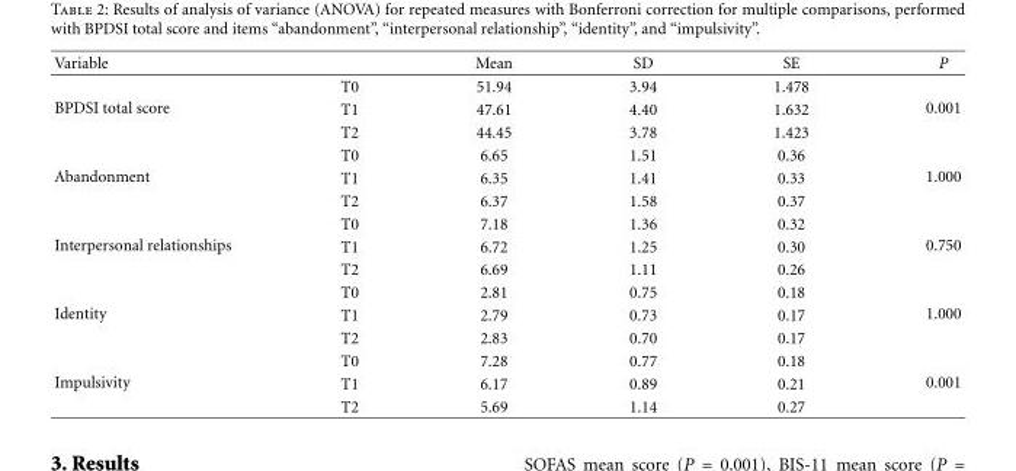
<table><thead><tr><td>Variable</td><td></td><td>Mean</td><td>SD</td><td>SE</td><td>P</td></tr></thead><tbody><tr><td rowspan="3">BPDSI total score</td><td>T0</td><td>51.94</td><td>3.94</td><td>1.478</td><td rowspan="3">0.001</td></tr><tr><td>T1</td><td>47.61</td><td>4.40</td><td>1.632</td></tr><tr><td>T2</td><td>44.45</td><td>3.78</td><td>1.423</td></tr><tr><td rowspan="3">Abandonment</td><td>T0</td><td>6.65</td><td>1.51</td><td>0.36</td><td rowspan="3">1.000</td></tr><tr><td>T1</td><td>6.35</td><td>1.41</td><td>0.33</td></tr><tr><td>T2</td><td>6.37</td><td>1.58</td><td>0.37</td></tr><tr><td rowspan="3">Interpersonal relationships</td><td>T0</td><td>7.18</td><td>1.36</td><td>0.32</td><td rowspan="3">0.750</td></tr><tr><td>T1</td><td>6.72</td><td>1.25</td><td>0.30</td></tr><tr><td>T2</td><td>6.69</td><td>1.11</td><td>0.26</td></tr><tr><td rowspan="3">Identity</td><td>T0</td><td>2.81</td><td>0.75</td><td>0.18</td><td rowspan="3">1.000</td></tr><tr><td>T1</td><td>2.79</td><td>0.73</td><td>0.17</td></tr><tr><td>T2</td><td>2.83</td><td>0.70</td><td>0.17</td></tr><tr><td rowspan="3">Impulsivity</td><td>T0</td><td>7.28</td><td>0.77</td><td>0.18</td><td rowspan="3">0.001</td></tr><tr><td>T1</td><td>6.17</td><td>0.89</td><td>0.21</td></tr><tr><td>T2</td><td>5.69</td><td>1.14</td><td>0.27</td></tr></tbody></table>